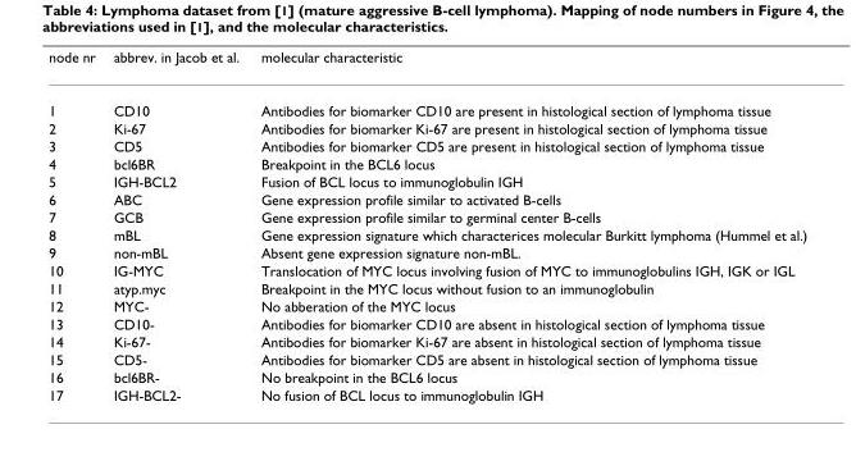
<table><thead><tr><td>node nr</td><td>abbrev. in Jacob et al.</td><td>molecular characteristic</td></tr></thead><tbody><tr><td>1</td><td>CD10</td><td>Antibodies for biomarker CD10 are present in histological section of lymphoma tissue</td></tr><tr><td>2</td><td>Ki-67</td><td>Antibodies for biomarker Ki-67 are present in histological section of lymphoma tissue</td></tr><tr><td>3</td><td>CD5</td><td>Antibodies for biomarker CD5 are present in histological section of lymphoma tissue</td></tr><tr><td>4</td><td>bcl6BR</td><td>Breakpoint in the BCL6 locus</td></tr><tr><td>5</td><td>IGH-BCL2</td><td>Fusion of BCL locus to immunoglobulin IGH</td></tr><tr><td>6</td><td>ABC</td><td>Gene expression profile similar to activated B-cells</td></tr><tr><td>7</td><td>GCB</td><td>Gene expression profile similar to germinal center B-cells</td></tr><tr><td>8</td><td>mBL</td><td>Gene expression signature which characterices molecular Burkitt lymphoma (Hummel et al.)</td></tr><tr><td>9</td><td>non-mBL</td><td>Absent gene expression signature non-mBL.</td></tr><tr><td>10</td><td>IG-MYC</td><td>Translocation of MYC locus involving fusion of MYC to immunoglobulins IGH, IGK or IGL</td></tr><tr><td>11</td><td>atyp.myc</td><td>Breakpoint in the MYC locus without fusion to an immunoglobulin</td></tr><tr><td>12</td><td>MYC-</td><td>No abberation of the MYC locus</td></tr><tr><td>13</td><td>CD10-</td><td>Antibodies for biomarker CD10 are absent in histological section of lymphoma tissue</td></tr><tr><td>14</td><td>Ki-67-</td><td>Antibodies for biomarker Ki-67 are absent in histological section of lymphoma tissue</td></tr><tr><td>15</td><td>CD5-</td><td>Antibodies for biomarker CD5 are absent in histological section of lymphoma tissue</td></tr><tr><td>16</td><td>bcl6BR-</td><td>No breakpoint in the BCL6 locus</td></tr><tr><td>17</td><td>IGH-BCL2-</td><td>No fusion of BCL locus to immunoglobulin IGH</td></tr></tbody></table>